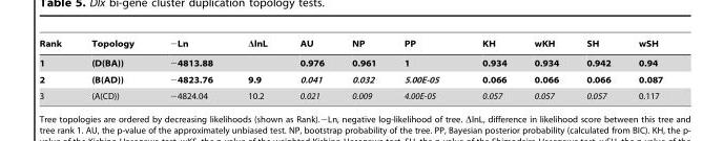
<table><thead><tr><td>Rank</td><td>Topology</td><td>−Ln</td><td>ΔlnL</td><td>AU</td><td>NP</td><td>PP</td><td>KH</td><td>wKH</td><td>SH</td><td>wSH</td></tr></thead><tbody><tr><td>1</td><td>(D(BA))</td><td>−4813.88</td><td></td><td>0.976</td><td>0.961</td><td>1</td><td>0.934</td><td>0.934</td><td>0.942</td><td>0.94</td></tr><tr><td>2</td><td>(B(AD))</td><td>−4823.76</td><td>9.9</td><td>0.041</td><td>0.032</td><td>5.00E-05</td><td>0.066</td><td>0.066</td><td>0.066</td><td>0.087</td></tr><tr><td>3</td><td>(A(CD))</td><td>−4824.04</td><td>10.2</td><td>0.021</td><td>0.009</td><td>4.00E-05</td><td>0.057</td><td>0.057</td><td>0.057</td><td>0.117</td></tr></tbody></table>